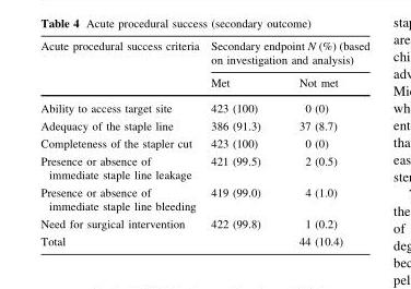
<table><thead><tr><td rowspan="2">Acute procedural success criteria</td><td colspan="2">Secondary endpoint N (%) (based on investigation and analysis)</td></tr><tr><td>Met</td><td>Not met</td></tr></thead><tbody><tr><td>Ability to access target site</td><td>423 (100)</td><td>0 (0)</td></tr><tr><td>Adequacy of the staple line</td><td>386 (91.3)</td><td>37 (8.7)</td></tr><tr><td>Completeness of the stapler cut</td><td>423 (100)</td><td>0 (0)</td></tr><tr><td>Presence or absence of immediate staple line leakage</td><td>421 (99.5)</td><td>2 (0.5)</td></tr><tr><td>Presence or absence of immediate staple line bleeding</td><td>419 (99.0)</td><td>4 (1.0)</td></tr><tr><td>Need for surgical intervention</td><td>422 (99.8)</td><td>1 (0.2)</td></tr><tr><td>Total</td><td></td><td>44 (10.4)</td></tr></tbody></table>